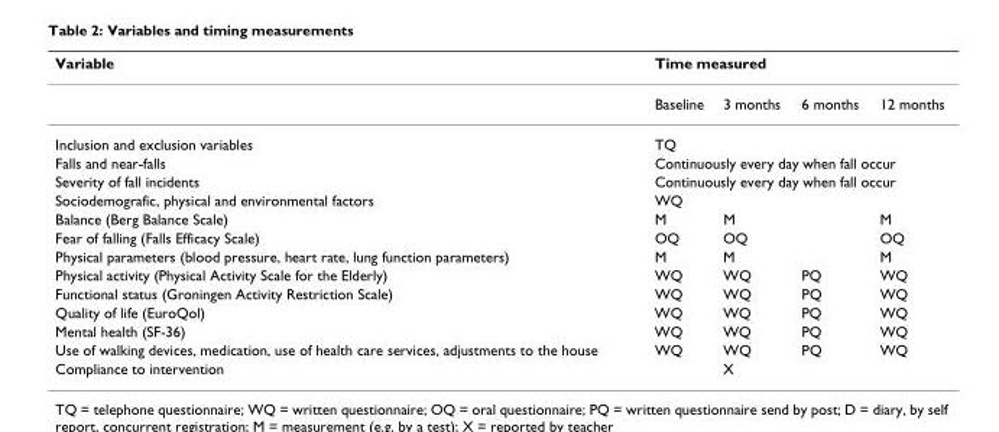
<table><thead><tr><td rowspan="2">Variable</td><td colspan="4">Time measured</td></tr><tr><td>Baseline</td><td>3 months</td><td>6 months</td><td>12 months</td></tr></thead><tbody><tr><td>Inclusion and exclusion variables</td><td>TQ</td><td></td><td></td><td></td></tr><tr><td>Falls and near-falls</td><td colspan="4">Continuously every day when fall occur</td></tr><tr><td>Severity of fall incidents</td><td colspan="4">Continuously every day when fall occur</td></tr><tr><td>Sociodemografic, physical and environmental factors</td><td>WQ</td><td></td><td></td><td></td></tr><tr><td>Balance (Berg Balance Scale)</td><td>M</td><td>M</td><td></td><td>M</td></tr><tr><td>Fear of falling (Falls Efficacy Scale)</td><td>OQ</td><td>OQ</td><td></td><td>OQ</td></tr><tr><td>Physical parameters (blood pressure, heart rate, lung function parameters)</td><td>M</td><td>M</td><td></td><td>M</td></tr><tr><td>Physical activity (Physical Activity Scale for the Elderly)</td><td>WQ</td><td>WQ</td><td>PQ</td><td>WQ</td></tr><tr><td>Functional status (Groningen Activity Restriction Scale)</td><td>WQ</td><td>WQ</td><td>PQ</td><td>WQ</td></tr><tr><td>Quality of life (EuroQol)</td><td>WQ</td><td>WQ</td><td>PQ</td><td>WQ</td></tr><tr><td>Mental health (SF-36)</td><td>WQ</td><td>WQ</td><td>PQ</td><td>WQ</td></tr><tr><td>Use of walking devices, medication, use of health care services, adjustments to the house</td><td>WQ</td><td>WQ</td><td>PQ</td><td>WQ</td></tr><tr><td>Compliance to intervention</td><td></td><td>X</td><td></td><td></td></tr></tbody></table>